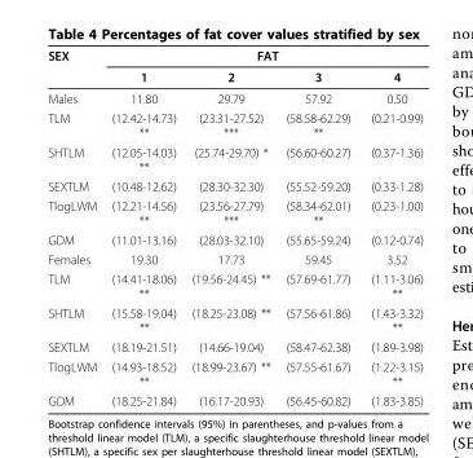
<table><thead><tr><td rowspan="2">SEX</td><td colspan="4">FAT</td></tr><tr><td>1</td><td>2</td><td>3</td><td>4</td></tr></thead><tbody><tr><td>Males</td><td>11.80</td><td>29.79</td><td>57.92</td><td>0.50</td></tr><tr><td>TLM</td><td>(12.42-14.73) **</td><td>(23.31-27.52) ***</td><td>(58.58-62.29) **</td><td>(0.21-0.99)</td></tr><tr><td>SHTLM</td><td>(12.05-14.03) **</td><td>(25.74-29.70) *</td><td>(56.60-60.27)</td><td>(0.37-1.36)</td></tr><tr><td>SEXTLM</td><td>(10.48-12.62)</td><td>(28.30-32.30)</td><td>(55.52-59.20)</td><td>(0.33-1.28)</td></tr><tr><td>TlogLWM</td><td>(12.21-14.56) **</td><td>(23.56-27.79) ***</td><td>(58.34-62.01) **</td><td>(0.23-1.00)</td></tr><tr><td>GDM</td><td>(11.01-13.16)</td><td>(28.03-32.10)</td><td>(55.65-59.24)</td><td>(0.12-0.74)</td></tr><tr><td>Females</td><td>19.30</td><td>17.73</td><td>59.45</td><td>3.52</td></tr><tr><td>TLM</td><td>(14.41-18.06) **</td><td>(19.56-24.45) **</td><td>(57.69-61.77)</td><td>(1.11-3.06) **</td></tr><tr><td>SHTLM</td><td>(15.58-19.04) **</td><td>(18.25-23.08) **</td><td>(57.56-61.86)</td><td>(1.43-3.32) **</td></tr><tr><td>SEXTLM</td><td>(18.19-21.51)</td><td>(14.66-19.04)</td><td>(58.47-62.38)</td><td>(1.89-3.98)</td></tr><tr><td>TlogLWM</td><td>(14.93-18.52) **</td><td>(18.99-23.67) **</td><td>(57.55-61.67)</td><td>(1.22-3.15) **</td></tr><tr><td>GDM</td><td>(18.25-21.84)</td><td>(16.17-20.93)</td><td>(56.45-60.82)</td><td>(1.83-3.85)</td></tr></tbody></table>